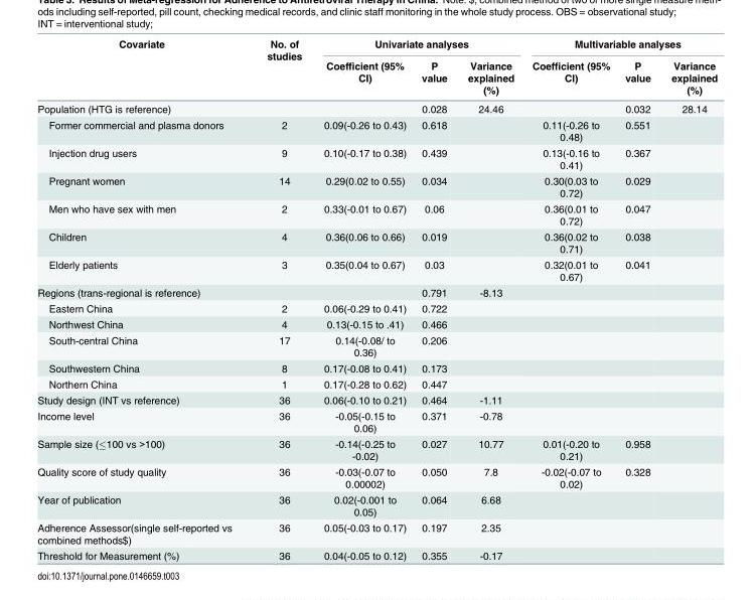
<table><thead><tr><td rowspan="3">Covariate</td><td rowspan="3">No. of studies</td><td colspan="3">Univariate analyses</td><td colspan="3">Multivariable analyses</td></tr><tr><td rowspan="2">Coefficient (95% CI)</td><td rowspan="2">P value</td><td rowspan="2">Variance explained (%)</td><td rowspan="2">Coefficient (95% CI)</td><td rowspan="2">P value</td><td rowspan="2">Variance explained (%)</td></tr><tr></tr></thead><tbody><tr><td>Population (HTG is reference)</td><td></td><td></td><td>0.028</td><td>24.46</td><td></td><td>0.032</td><td>28.14</td></tr><tr><td>Former commercial and plasma donors</td><td>2</td><td>0.09(-0.26 to 0.43)</td><td>0.618</td><td></td><td>0.11(-0.26 to 0.48)</td><td>0.551</td><td></td></tr><tr><td>Injection drug users</td><td>9</td><td>0.10(-0.17 to 0.38)</td><td>0.439</td><td></td><td>0.13(-0.16 to 0.41)</td><td>0.367</td><td></td></tr><tr><td>Pregnant women</td><td>14</td><td>0.29(0.02 to 0.55)</td><td>0.034</td><td></td><td>0.30(0.03 to 0.72)</td><td>0.029</td><td></td></tr><tr><td>Men who have sex with men</td><td>2</td><td>0.33(-0.01 to 0.67)</td><td>0.06</td><td></td><td>0.36(0.01 to 0.72)</td><td>0.047</td><td></td></tr><tr><td>Children</td><td>4</td><td>0.36(0.06 to 0.66)</td><td>0.019</td><td></td><td>0.36(0.02 to 0.71)</td><td>0.038</td><td></td></tr><tr><td>Elderly patients</td><td>3</td><td>0.35(0.04 to 0.67)</td><td>0.03</td><td></td><td>0.32(0.01 to 0.67)</td><td>0.041</td><td></td></tr><tr><td>Regions (trans-regional is reference)</td><td></td><td></td><td>0.791</td><td>-8.13</td><td></td><td></td><td></td></tr><tr><td>Eastern China</td><td>2</td><td>0.06(-0.29 to 0.41)</td><td>0.722</td><td></td><td></td><td></td><td></td></tr><tr><td>Northwest China</td><td>4</td><td>0.13(-0.15 to .41)</td><td>0.466</td><td></td><td></td><td></td><td></td></tr><tr><td>South-central China</td><td>17</td><td>0.14(-0.08/ to 0.36)</td><td>0.206</td><td></td><td></td><td></td><td></td></tr><tr><td>Southwestern China</td><td>8</td><td>0.17(-0.08 to 0.41)</td><td>0.173</td><td></td><td></td><td></td><td></td></tr><tr><td>Northern China</td><td>1</td><td>0.17(-0.28 to 0.62)</td><td>0.447</td><td></td><td></td><td></td><td></td></tr><tr><td>Study design (INT vs reference)</td><td>36</td><td>0.06(-0.10 to 0.21)</td><td>0.464</td><td>-1.11</td><td></td><td></td><td></td></tr><tr><td>Income level</td><td>36</td><td>-0.05(-0.15 to 0.06)</td><td>0.371</td><td>-0.78</td><td></td><td></td><td></td></tr><tr><td>Sample size (≤100 vs &gt;100)</td><td>36</td><td>-0.14(-0.25 to -0.02)</td><td>0.027</td><td>10.77</td><td>0.01(-0.20 to 0.21)</td><td>0.958</td><td></td></tr><tr><td>Quality score of study quality</td><td>36</td><td>-0.03(-0.07 to 0.00002)</td><td>0.050</td><td>7.8</td><td>-0.02(-0.07 to 0.02)</td><td>0.328</td><td></td></tr><tr><td>Year of publication</td><td>36</td><td>0.02(-0.001 to 0.05)</td><td>0.064</td><td>6.68</td><td></td><td></td><td></td></tr><tr><td>Adherence Assessor(single self-reported vs combined methods$)</td><td>36</td><td>0.05(-0.03 to 0.17)</td><td>0.197</td><td>2.35</td><td></td><td></td><td></td></tr><tr><td>Threshold for Measurement (%)</td><td>36</td><td>0.04(-0.05 to 0.12)</td><td>0.355</td><td>-0.17</td><td></td><td></td><td></td></tr></tbody></table>